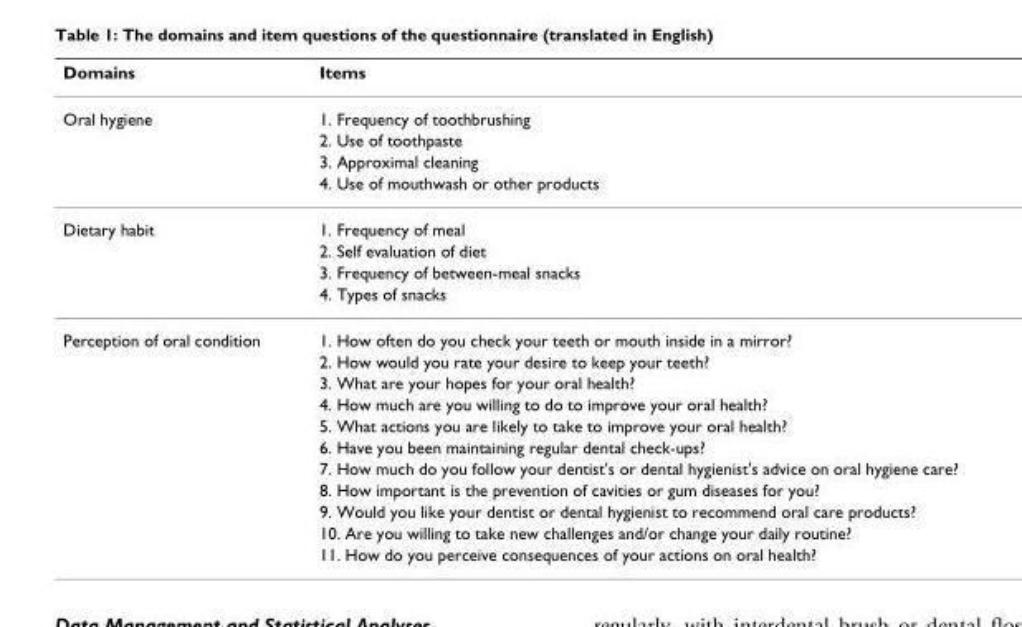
<table><thead><tr><td>Domains</td><td>Items</td></tr></thead><tbody><tr><td rowspan="4">Oral hygiene</td><td>1. Frequency of toothbrushing</td></tr><tr><td>2. Use of toothpaste</td></tr><tr><td>3. Approximal cleaning</td></tr><tr><td>4. Use of mouthwash or other products</td></tr><tr><td rowspan="4">Dietary habit</td><td>1. Frequency of meal</td></tr><tr><td>2. Self evaluation of diet</td></tr><tr><td>3. Frequency of between-meal snacks</td></tr><tr><td>4. Types of snacks</td></tr><tr><td rowspan="11">Perception of oral condition</td><td>1. How often do you check your teeth or mouth inside in a mirror?</td></tr><tr><td>2. How would you rate your desire to keep your teeth?</td></tr><tr><td>3. What are your hopes for your oral health?</td></tr><tr><td>4. How much are you willing to do to improve your oral health?</td></tr><tr><td>5. What actions you are likely to take to improve your oral health?</td></tr><tr><td>6. Have you been maintaining regular dental check-ups?</td></tr><tr><td>7. How much do you follow your dentist&#x27;s or dental hygienist&#x27;s advice on oral hygiene care?</td></tr><tr><td>8. How important is the prevention of cavities or gum diseases for you?</td></tr><tr><td>9. Would you like your dentist or dental hygienist to recommend oral care products?</td></tr><tr><td>10. Are you willing to take new challenges and/or change your daily routine?</td></tr><tr><td>11. How do you perceive consequences of your actions on oral health?</td></tr></tbody></table>